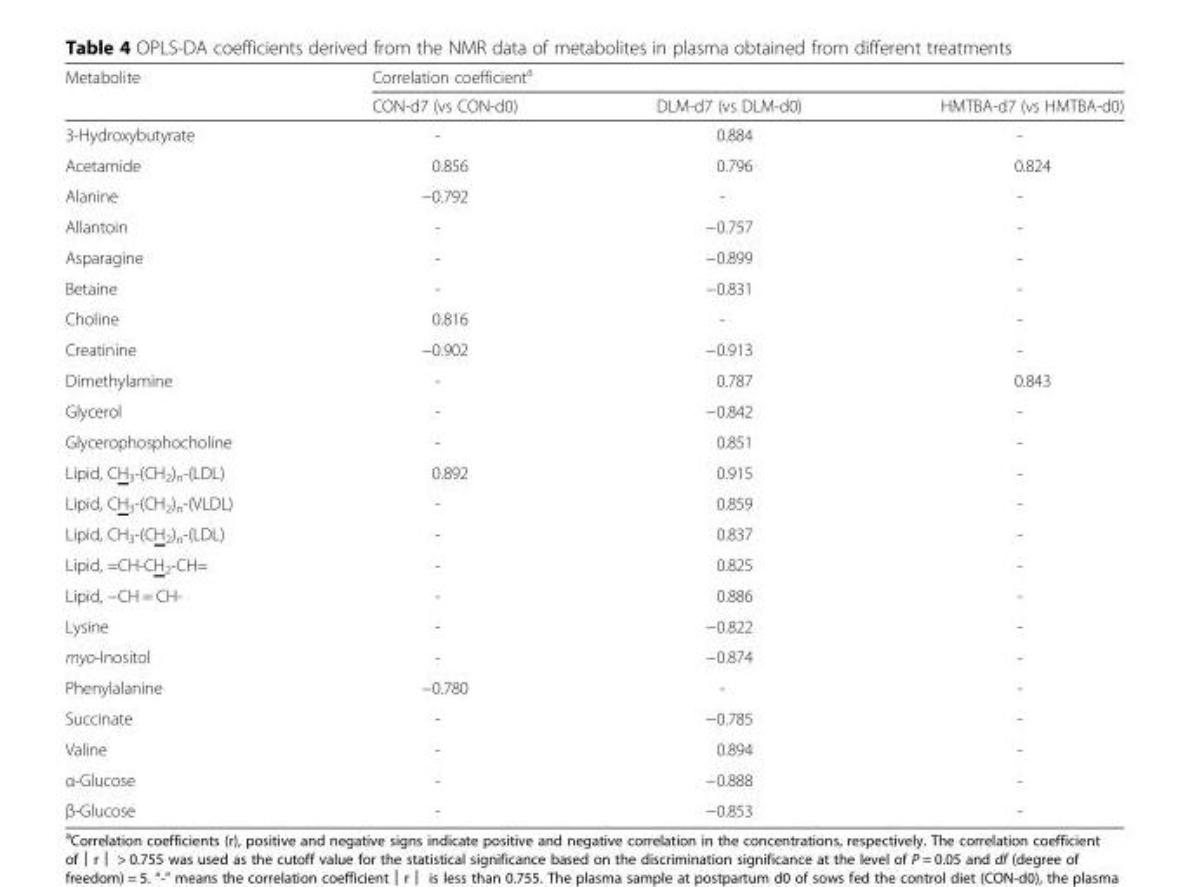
<table><thead><tr><td rowspan="2">Metabolite</td><td colspan="3">Correlation coefficient<sup>a</sup></td></tr><tr><td>CON-d7 (vs CON-d0)</td><td>DLM-d7 (vs DLM-d0)</td><td>HMTBA-d7 (vs HMTBA-d0)</td></tr></thead><tbody><tr><td>3-Hydroxybutyrate</td><td>-</td><td>0.884</td><td>-</td></tr><tr><td>Acetamide</td><td>0.856</td><td>0.796</td><td>0.824</td></tr><tr><td>Alanine</td><td>−0.792</td><td>-</td><td>-</td></tr><tr><td>Allantoin</td><td>-</td><td>−0.757</td><td>-</td></tr><tr><td>Asparagine</td><td>-</td><td>−0.899</td><td>-</td></tr><tr><td>Betaine</td><td>-</td><td>−0.831</td><td>-</td></tr><tr><td>Choline</td><td>0.816</td><td>-</td><td>-</td></tr><tr><td>Creatinine</td><td>−0.902</td><td>−0.913</td><td>-</td></tr><tr><td>Dimethylamine</td><td>-</td><td>0.787</td><td>0.843</td></tr><tr><td>Glycerol</td><td>-</td><td>−0.842</td><td>-</td></tr><tr><td>Glycerophosphocholine</td><td>-</td><td>0.851</td><td>-</td></tr><tr><td>Lipid, CH<sub>3</sub>-(CH<sub>2</sub>)<sub>n</sub>-(LDL)</td><td>0.892</td><td>0.915</td><td>-</td></tr><tr><td>Lipid, CH<sub>3</sub>-(CH<sub>2</sub>)<sub>n</sub>-(VLDL)</td><td>-</td><td>0.859</td><td>-</td></tr><tr><td>Lipid, CH<sub>3</sub>-(CH<sub>2</sub>)<sub>n</sub>-(LDL)</td><td>-</td><td>0.837</td><td>-</td></tr><tr><td>Lipid, =CH-CH<sub>2</sub>-CH=</td><td>-</td><td>0.825</td><td>-</td></tr><tr><td>Lipid, −CH = CH-</td><td>-</td><td>0.886</td><td>-</td></tr><tr><td>Lysine</td><td>-</td><td>−0.822</td><td>-</td></tr><tr><td>myo-Inositol</td><td>-</td><td>−0.874</td><td>-</td></tr><tr><td>Phenylalanine</td><td>−0.780</td><td>-</td><td>-</td></tr><tr><td>Succinate</td><td>-</td><td>−0.785</td><td>-</td></tr><tr><td>Valine</td><td>-</td><td>0.894</td><td>-</td></tr><tr><td>α-Glucose</td><td>-</td><td>−0.888</td><td>-</td></tr><tr><td>β-Glucose</td><td>-</td><td>−0.853</td><td>-</td></tr></tbody></table>